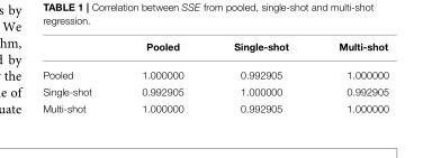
<table><thead><tr><td></td><td>Pooled</td><td>Single-shot</td><td>Multi-shot</td></tr></thead><tbody><tr><td>Pooled</td><td>1.000000</td><td>0.992905</td><td>1.000000</td></tr><tr><td>Single-shot</td><td>0.992905</td><td>1.000000</td><td>0.992905</td></tr><tr><td>Multi-shot</td><td>1.000000</td><td>0.992905</td><td>1.000000</td></tr></tbody></table>